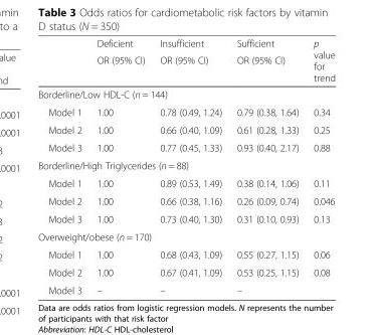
<table><thead><tr><td rowspan="2"></td><td rowspan="2">Deficient OR (95% CI)</td><td rowspan="2">Insufficient OR (95% CI)</td><td rowspan="2">Sufficient OR (95% CI)</td><td rowspan="2">p value for trend</td></tr><tr></tr></thead><tbody><tr><td colspan="5">Borderline/Low HDL-C (n = 144)</td></tr><tr><td>Model 1</td><td>1.00</td><td>0.78 (0.49, 1.24)</td><td>0.79 (0.38, 1.64)</td><td>0.34</td></tr><tr><td>Model 2</td><td>1.00</td><td>0.66 (0.40, 1.09)</td><td>0.61 (0.28, 1.33)</td><td>0.25</td></tr><tr><td>Model 3</td><td>1.00</td><td>0.77 (0.45, 1.33)</td><td>0.93 (0.40, 2.17)</td><td>0.88</td></tr><tr><td colspan="5">Borderline/High Triglycerides (n = 88)</td></tr><tr><td>Model 1</td><td>1.00</td><td>0.89 (0.53, 1.49)</td><td>0.38 (0.14, 1.06)</td><td>0.11</td></tr><tr><td>Model 2</td><td>1.00</td><td>0.66 (0.38, 1.16)</td><td>0.26 (0.09, 0.74)</td><td>0.046</td></tr><tr><td>Model 3</td><td>1.00</td><td>0.73 (0.40, 1.30)</td><td>0.31 (0.10, 0.93)</td><td>0.13</td></tr><tr><td colspan="5">Overweight/obese (n = 170)</td></tr><tr><td>Model 1</td><td>1.00</td><td>0.68 (0.43, 1.09)</td><td>0.55 (0.27, 1.15)</td><td>0.06</td></tr><tr><td>Model 2</td><td>1.00</td><td>0.67 (0.41, 1.09)</td><td>0.53 (0.25, 1.15)</td><td>0.08</td></tr><tr><td>Model 3</td><td>–</td><td>–</td><td>–</td><td></td></tr></tbody></table>